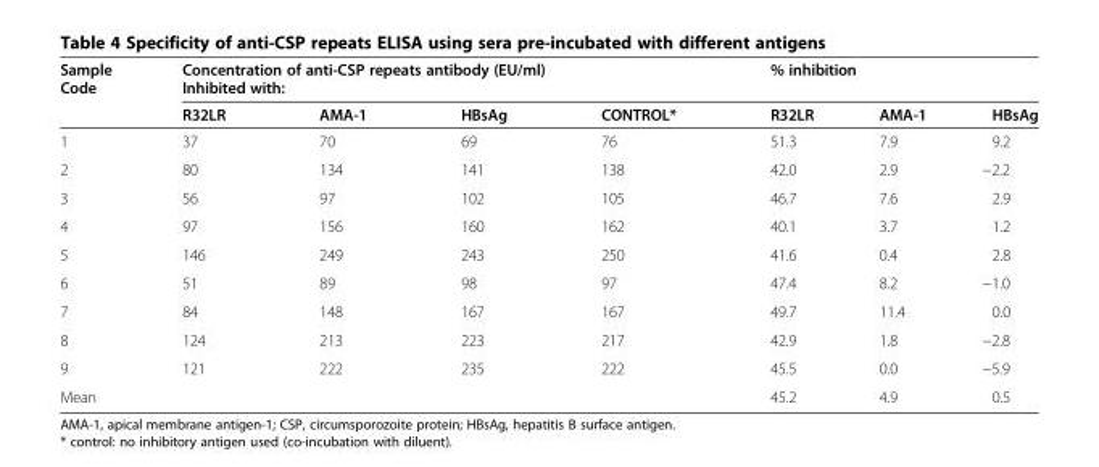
<table><thead><tr><td rowspan="2">Sample Code</td><td colspan="4">Concentration of anti-CSP repeats antibody (EU/ml) Inhibited with:</td><td colspan="3">% inhibition</td></tr><tr><td>R32LR</td><td>AMA-1</td><td>HBsAg</td><td>CONTROL*</td><td>R32LR</td><td>AMA-1</td><td>HBsAg</td></tr></thead><tbody><tr><td>1</td><td>37</td><td>70</td><td>69</td><td>76</td><td>51.3</td><td>7.9</td><td>9.2</td></tr><tr><td>2</td><td>80</td><td>134</td><td>141</td><td>138</td><td>42.0</td><td>2.9</td><td>−2.2</td></tr><tr><td>3</td><td>56</td><td>97</td><td>102</td><td>105</td><td>46.7</td><td>7.6</td><td>2.9</td></tr><tr><td>4</td><td>97</td><td>156</td><td>160</td><td>162</td><td>40.1</td><td>3.7</td><td>1.2</td></tr><tr><td>5</td><td>146</td><td>249</td><td>243</td><td>250</td><td>41.6</td><td>0.4</td><td>2.8</td></tr><tr><td>6</td><td>51</td><td>89</td><td>98</td><td>97</td><td>47.4</td><td>8.2</td><td>−1.0</td></tr><tr><td>7</td><td>84</td><td>148</td><td>167</td><td>167</td><td>49.7</td><td>11.4</td><td>0.0</td></tr><tr><td>8</td><td>124</td><td>213</td><td>223</td><td>217</td><td>42.9</td><td>1.8</td><td>−2.8</td></tr><tr><td>9</td><td>121</td><td>222</td><td>235</td><td>222</td><td>45.5</td><td>0.0</td><td>−5.9</td></tr><tr><td>Mean</td><td></td><td></td><td></td><td></td><td>45.2</td><td>4.9</td><td>0.5</td></tr></tbody></table>